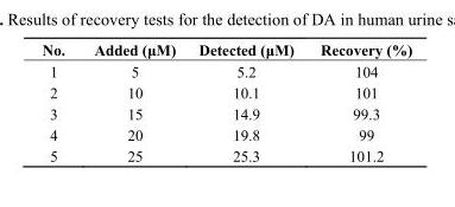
<table><thead><tr><td>No.</td><td>Added (μM)</td><td>Detected (μM)</td><td>Recovery (%)</td></tr></thead><tbody><tr><td>1</td><td>5</td><td>5.2</td><td>104</td></tr><tr><td>2</td><td>10</td><td>10.1</td><td>101</td></tr><tr><td>3</td><td>15</td><td>14.9</td><td>99.3</td></tr><tr><td>4</td><td>20</td><td>19.8</td><td>99</td></tr><tr><td>5</td><td>25</td><td>25.3</td><td>101.2</td></tr></tbody></table>